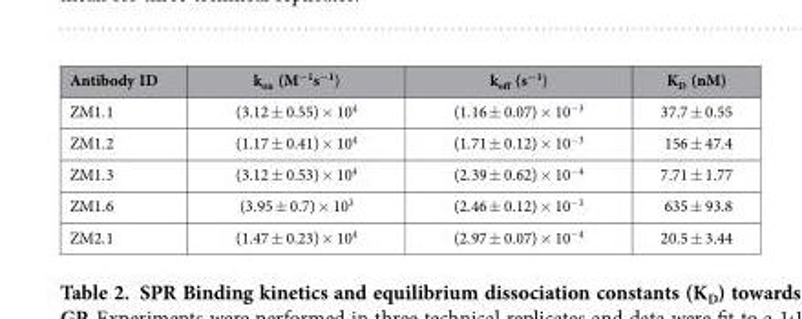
<table><thead><tr><td>Antibody ID</td><td>k<sub>on</sub> (M<sup>−1</sup>s<sup>−1</sup>)</td><td>k<sub>off</sub> (s<sup>−1</sup>)</td><td>K<sub>D</sub> (nM)</td></tr></thead><tbody><tr><td>ZM1.1</td><td>(3.12 ± 0.55) × 10<sup>4</sup></td><td>(1.16 ± 0.07) × 10<sup>−3</sup></td><td>37.7 ± 0.55</td></tr><tr><td>ZM1.2</td><td>(1.17 ± 0.41) × 10<sup>4</sup></td><td>(1.71 ± 0.12) × 10<sup>−3</sup></td><td>156 ± 47.4</td></tr><tr><td>ZM1.3</td><td>(3.12 ± 0.53) × 10<sup>4</sup></td><td>(2.39 ± 0.62) × 10<sup>−4</sup></td><td>7.71 ± 1.77</td></tr><tr><td>ZM1.6</td><td>(3.95 ± 0.7) × 10<sup>3</sup></td><td>(2.46 ± 0.12) × 10<sup>−3</sup></td><td>635 ± 93.8</td></tr><tr><td>ZM2.1</td><td>(1.47 ± 0.23) × 10<sup>4</sup></td><td>(2.97 ± 0.07) × 10<sup>−4</sup></td><td>20.5 ± 3.44</td></tr></tbody></table>